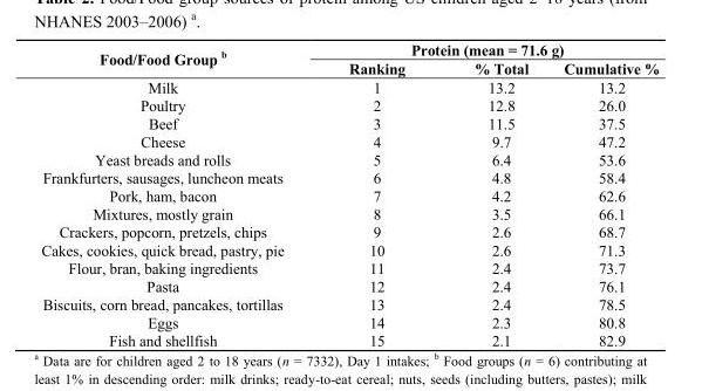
<table><thead><tr><td rowspan="2">Food/Food Group <sup>b</sup></td><td colspan="3">Protein (mean = 71.6 g)</td></tr><tr><td>Ranking</td><td>% Total</td><td>Cumulative %</td></tr></thead><tbody><tr><td>Milk</td><td>1</td><td>13.2</td><td>13.2</td></tr><tr><td>Poultry</td><td>2</td><td>12.8</td><td>26.0</td></tr><tr><td>Beef</td><td>3</td><td>11.5</td><td>37.5</td></tr><tr><td>Cheese</td><td>4</td><td>9.7</td><td>47.2</td></tr><tr><td>Yeast breads and rolls</td><td>5</td><td>6.4</td><td>53.6</td></tr><tr><td>Frankfurters, sausages, luncheon meats</td><td>6</td><td>4.8</td><td>58.4</td></tr><tr><td>Pork, ham, bacon</td><td>7</td><td>4.2</td><td>62.6</td></tr><tr><td>Mixtures, mostly grain</td><td>8</td><td>3.5</td><td>66.1</td></tr><tr><td>Crackers, popcorn, pretzels, chips</td><td>9</td><td>2.6</td><td>68.7</td></tr><tr><td>Cakes, cookies, quick bread, pastry, pie</td><td>10</td><td>2.6</td><td>71.3</td></tr><tr><td>Flour, bran, baking ingredients</td><td>11</td><td>2.4</td><td>73.7</td></tr><tr><td>Pasta</td><td>12</td><td>2.4</td><td>76.1</td></tr><tr><td>Biscuits, corn bread, pancakes, tortillas</td><td>13</td><td>2.4</td><td>78.5</td></tr><tr><td>Eggs</td><td>14</td><td>2.3</td><td>80.8</td></tr><tr><td>Fish and shellfish</td><td>15</td><td>2.1</td><td>82.9</td></tr></tbody></table>